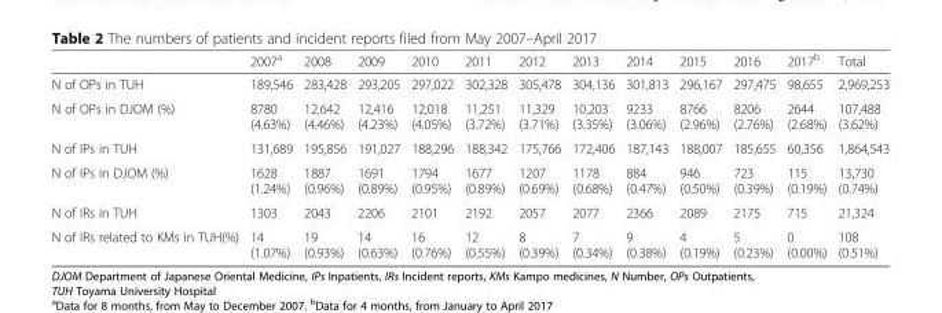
<table><thead><tr><td></td><td>2007<sup>a</sup></td><td>2008</td><td>2009</td><td>2010</td><td>2011</td><td>2012</td><td>2013</td><td>2014</td><td>2015</td><td>2016</td><td>2017<sup>b</sup></td><td>Total</td></tr></thead><tbody><tr><td>N of OPs in TUH</td><td>189,546</td><td>283,428</td><td>293,205</td><td>297,022</td><td>302,328</td><td>305,478</td><td>304,136</td><td>301,813</td><td>296,167</td><td>297,475</td><td>98,655</td><td>2,969,253</td></tr><tr><td>N of OPs in DJOM (%)</td><td>8780 (4.63%)</td><td>12,642 (4.46%)</td><td>12,416 (4.23%)</td><td>12,018 (4.05%)</td><td>11,251 (3.72%)</td><td>11,329 (3.71%)</td><td>10,203 (3.35%)</td><td>9233 (3.06%)</td><td>8766 (2.96%)</td><td>8206 (2.76%)</td><td>2644 (2.68%)</td><td>107,488 (3.62%)</td></tr><tr><td>N of IPs in TUH</td><td>131,689</td><td>195,856</td><td>191,027</td><td>188,296</td><td>188,342</td><td>175,766</td><td>172,406</td><td>187,143</td><td>188,007</td><td>185,655</td><td>60,356</td><td>1,864,543</td></tr><tr><td>N of IPs in DJOM (%)</td><td>1628 (1.24%)</td><td>1887 (0.96%)</td><td>1691 (0.89%)</td><td>1794 (0.95%)</td><td>1677 (0.89%)</td><td>1207 (0.69%)</td><td>1178 (0.68%)</td><td>884 (0.47%)</td><td>946 (0.50%)</td><td>723 (0.39%)</td><td>115 (0.19%)</td><td>13,730 (0.74%)</td></tr><tr><td>N of IRs in TUH</td><td>1303</td><td>2043</td><td>2206</td><td>2101</td><td>2192</td><td>2057</td><td>2077</td><td>2366</td><td>2089</td><td>2175</td><td>715</td><td>21,324</td></tr><tr><td>N of IRs related to KMs in TUH(%)</td><td>14 (1.07%)</td><td>19 (0.93%)</td><td>14 (0.63%)</td><td>16 (0.76%)</td><td>12 (0.55%)</td><td>8 (0.39%)</td><td>7 (0.34%)</td><td>9 (0.38%)</td><td>4 (0.19%)</td><td>5 (0.23%)</td><td>0 (0.00%)</td><td>108 (0.51%)</td></tr></tbody></table>